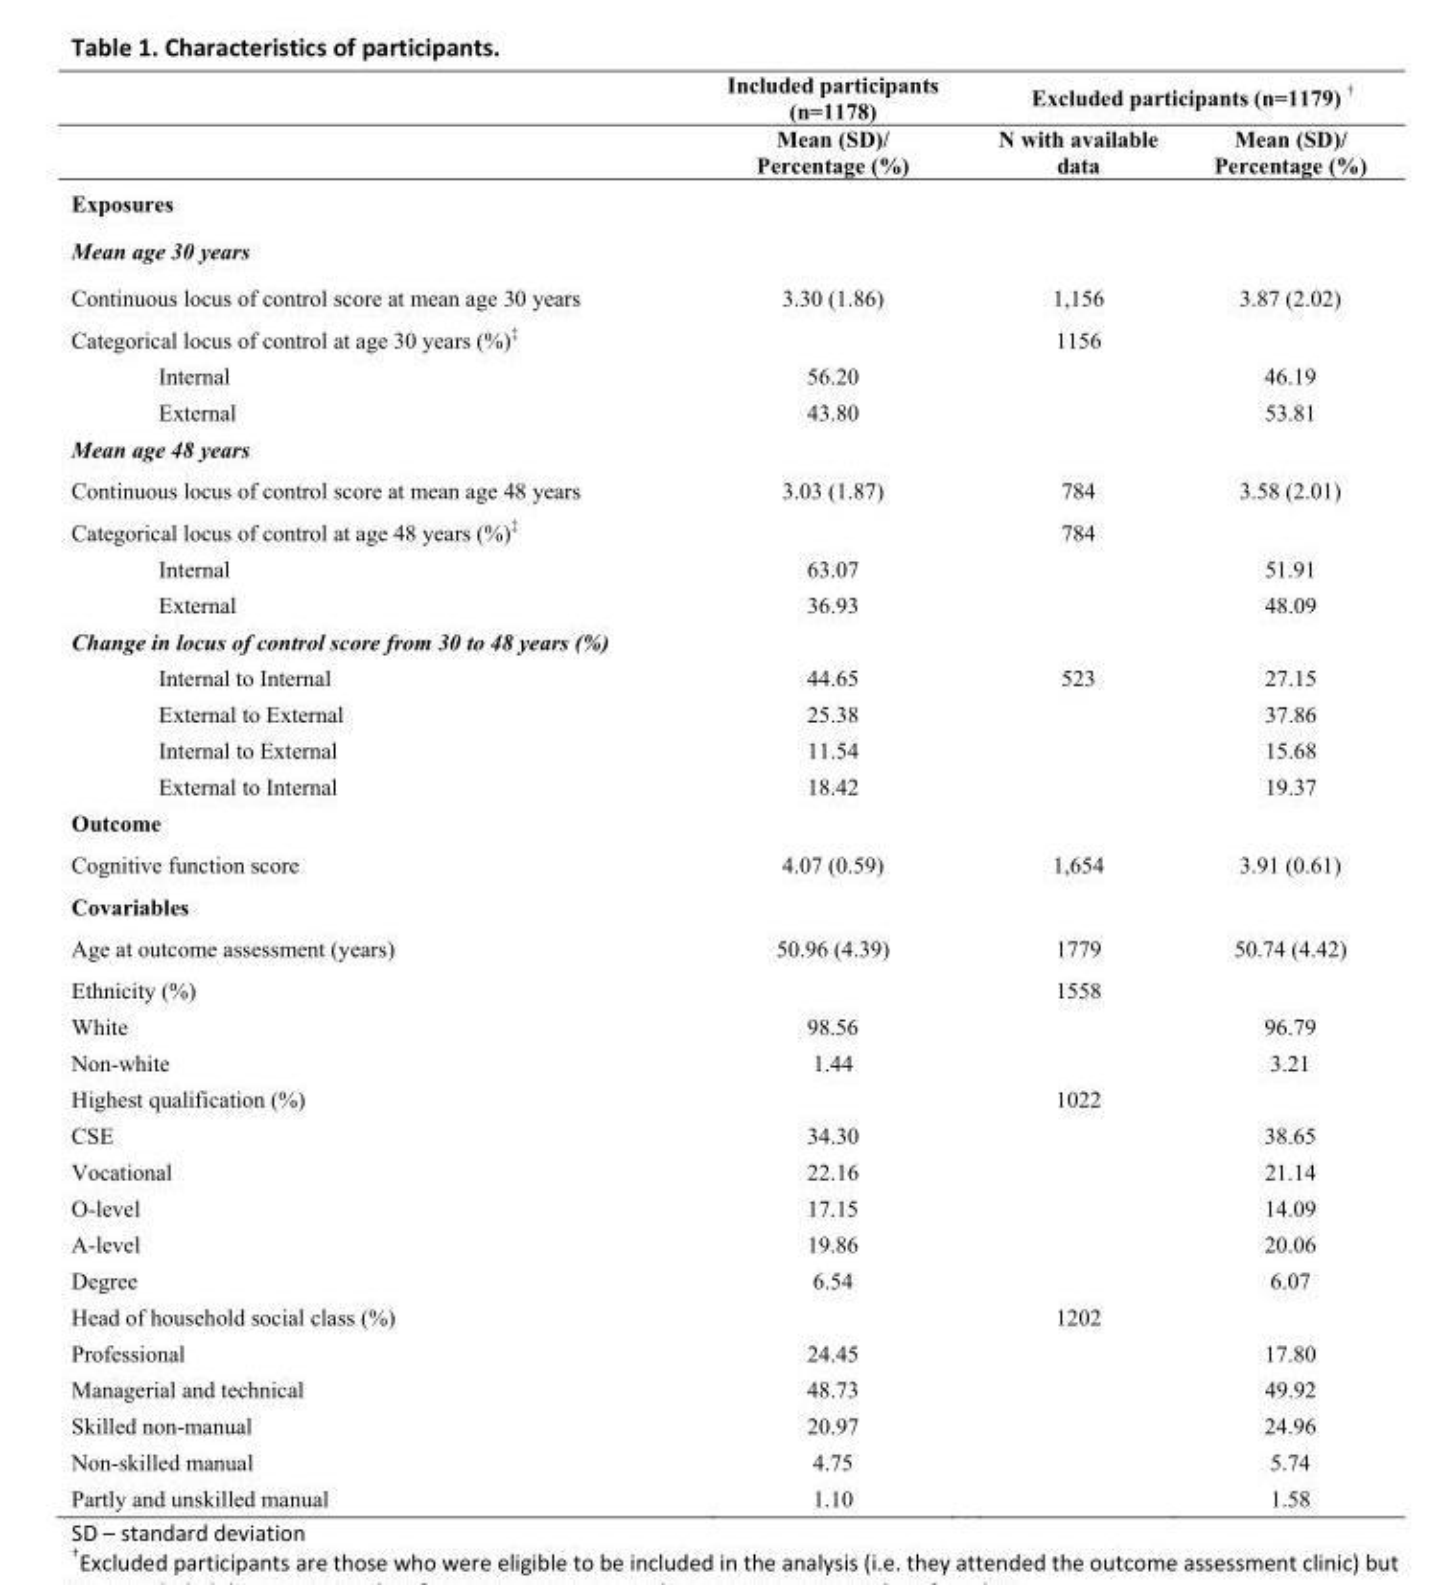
<table><thead><tr><td rowspan="2"></td><td rowspan="2">Included participants (n=1178) Mean (SD)/ Percentage (%)</td><td colspan="2">Excluded participants (n=1179) <sup>†</sup></td></tr><tr><td>N with available data</td><td>Mean (SD)/ Percentage (%)</td></tr></thead><tbody><tr><td colspan="4">Exposures</td></tr><tr><td colspan="4">Mean age 30 years</td></tr><tr><td>Continuous locus of control score at mean age 30 years</td><td>3.30 (1.86)</td><td>1,156</td><td>3.87 (2.02)</td></tr><tr><td>Categorical locus of control at age 30 years (%)<sup>‡</sup></td><td></td><td>1156</td><td></td></tr><tr><td>Internal</td><td>56.20</td><td></td><td>46.19</td></tr><tr><td>External</td><td>43.80</td><td></td><td>53.81</td></tr><tr><td colspan="4">Mean age 48 years</td></tr><tr><td>Continuous locus of control score at mean age 48 years</td><td>3.03 (1.87)</td><td>784</td><td>3.58 (2.01)</td></tr><tr><td>Categorical locus of control at age 48 years (%)<sup>‡</sup></td><td></td><td>784</td><td></td></tr><tr><td>Internal</td><td>63.07</td><td></td><td>51.91</td></tr><tr><td>External</td><td>36.93</td><td></td><td>48.09</td></tr><tr><td colspan="4">Change in locus of control score from 30 to 48 years (%)</td></tr><tr><td>Internal to Internal</td><td>44.65</td><td>523</td><td>27.15</td></tr><tr><td>External to External</td><td>25.38</td><td></td><td>37.86</td></tr><tr><td>Internal to External</td><td>11.54</td><td></td><td>15.68</td></tr><tr><td>External to Internal</td><td>18.42</td><td></td><td>19.37</td></tr><tr><td colspan="4">Outcome</td></tr><tr><td>Cognitive function score</td><td>4.07 (0.59)</td><td>1,654</td><td>3.91 (0.61)</td></tr><tr><td colspan="4">Covariables</td></tr><tr><td>Age at outcome assessment (years)</td><td>50.96 (4.39)</td><td>1779</td><td>50.74 (4.42)</td></tr><tr><td>Ethnicity (%)</td><td></td><td>1558</td><td></td></tr><tr><td>White</td><td>98.56</td><td></td><td>96.79</td></tr><tr><td>Non-white</td><td>1.44</td><td></td><td>3.21</td></tr><tr><td>Highest qualification (%)</td><td></td><td>1022</td><td></td></tr><tr><td>CSE</td><td>34.30</td><td></td><td>38.65</td></tr><tr><td>Vocational</td><td>22.16</td><td></td><td>21.14</td></tr><tr><td>O-level</td><td>17.15</td><td></td><td>14.09</td></tr><tr><td>A-level</td><td>19.86</td><td></td><td>20.06</td></tr><tr><td>Degree</td><td>6.54</td><td></td><td>6.07</td></tr><tr><td>Head of household social class (%)</td><td></td><td>1202</td><td></td></tr><tr><td>Professional</td><td>24.45</td><td></td><td>17.80</td></tr><tr><td>Managerial and technical</td><td>48.73</td><td></td><td>49.92</td></tr><tr><td>Skilled non-manual</td><td>20.97</td><td></td><td>24.96</td></tr><tr><td>Non-skilled manual</td><td>4.75</td><td></td><td>5.74</td></tr><tr><td>Partly and unskilled manual</td><td>1.10</td><td></td><td>1.58</td></tr></tbody></table>